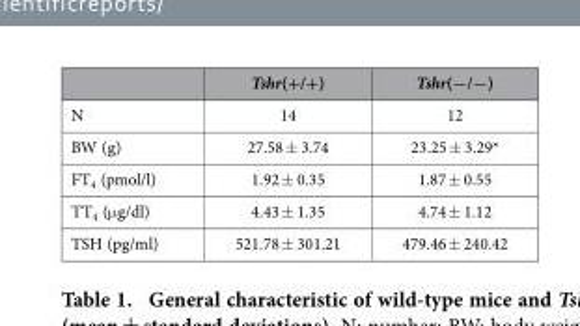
<table><thead><tr><td></td><td>Tshr(+/+)</td><td>Tshr(−/−)</td></tr></thead><tbody><tr><td>N</td><td>14</td><td>12</td></tr><tr><td>BW (g)</td><td>27.58 ± 3.74</td><td>23.25 ± 3.29*</td></tr><tr><td>FT<sub>4</sub> (pmol/l)</td><td>1.92 ± 0.35</td><td>1.87 ± 0.55</td></tr><tr><td>TT<sub>4</sub> (μ g/dl)</td><td>4.43 ± 1.35</td><td>4.74 ± 1.12</td></tr><tr><td>TSH (pg/ml)</td><td>521.78 ± 301.21</td><td>479.46 ± 240.42</td></tr></tbody></table>